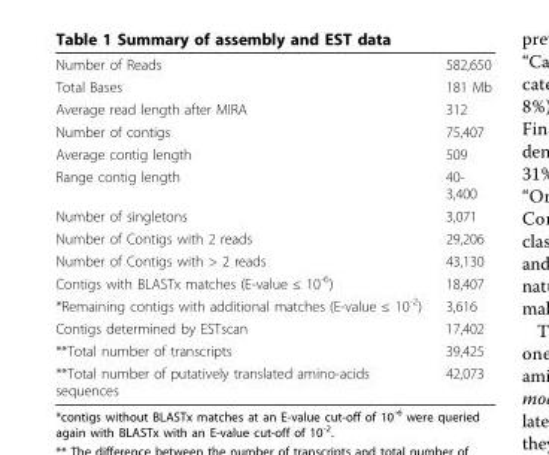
<table><tbody><tr><td>Number of Reads</td><td>582,650</td></tr><tr><td>Total Bases</td><td>181 Mb</td></tr><tr><td>Average read length after MIRA</td><td>312</td></tr><tr><td>Number of contigs</td><td>75,407</td></tr><tr><td>Average contig length</td><td>509</td></tr><tr><td>Range contig length</td><td>40- 3,400</td></tr><tr><td>Number of singletons</td><td>3,071</td></tr><tr><td>Number of Contigs with 2 reads</td><td>29,206</td></tr><tr><td>Number of Contigs with &gt; 2 reads</td><td>43,130</td></tr><tr><td>Contigs with BLASTx matches (E-value ≤ 10<sup>-6</sup>)</td><td>18,407</td></tr><tr><td>*Remaining contigs with additional matches (E-value ≤ 10<sup>-2</sup>)</td><td>3,616</td></tr><tr><td>Contigs determined by ESTscan</td><td>17,402</td></tr><tr><td>**Total number of transcripts</td><td>39,425</td></tr><tr><td>**Total number of putatively translated amino-acids sequences</td><td>42,073</td></tr></tbody></table>